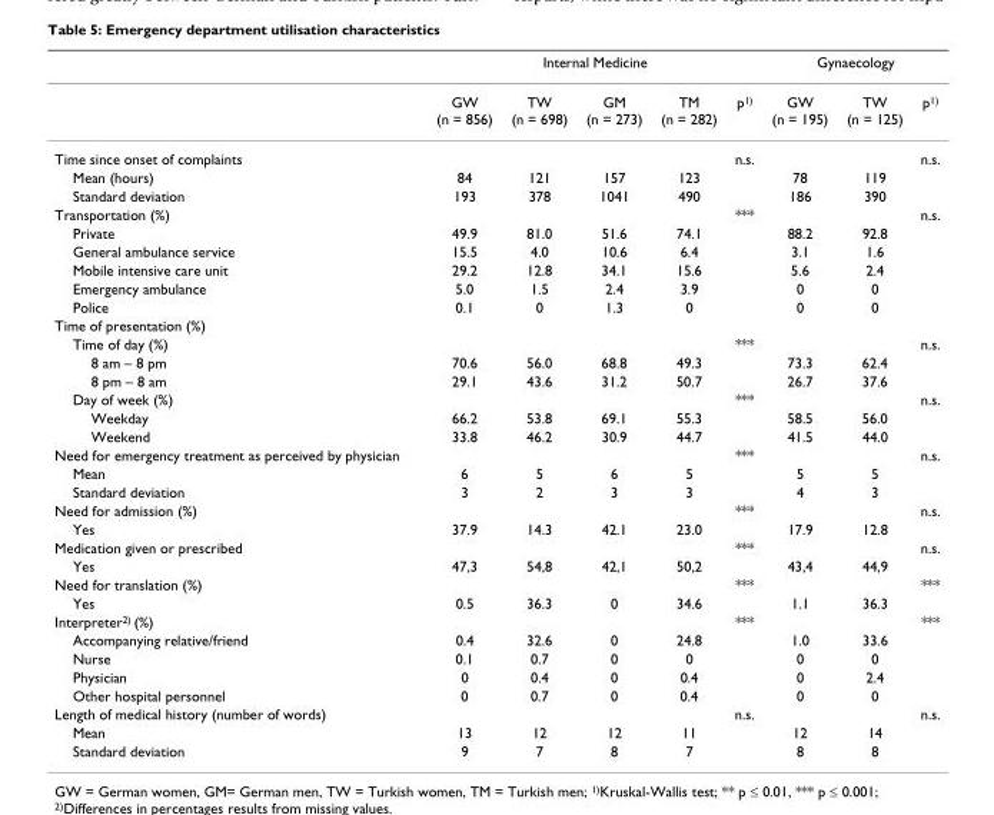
<table><thead><tr><td rowspan="2"></td><td colspan="5">Internal Medicine</td><td colspan="3">Gynaecology</td></tr><tr><td>GW (n = 856)</td><td>TW (n = 698)</td><td>GM (n = 273)</td><td>TM (n = 282)</td><td>p<sup>1)</sup></td><td>GW (n = 195)</td><td>TW (n = 125)</td><td>p<sup>1)</sup></td></tr></thead><tbody><tr><td>Time since onset of complaints</td><td></td><td></td><td></td><td></td><td>n.s.</td><td></td><td></td><td>n.s.</td></tr><tr><td>Mean (hours)</td><td>84</td><td>121</td><td>157</td><td>123</td><td></td><td>78</td><td>119</td><td></td></tr><tr><td>Standard deviation</td><td>193</td><td>378</td><td>1041</td><td>490</td><td></td><td>186</td><td>390</td><td></td></tr><tr><td>Transportation (%)</td><td></td><td></td><td></td><td></td><td>***</td><td></td><td></td><td>n.s.</td></tr><tr><td>Private</td><td>49.9</td><td>81.0</td><td>51.6</td><td>74.1</td><td></td><td>88.2</td><td>92.8</td><td></td></tr><tr><td>General ambulance service</td><td>15.5</td><td>4.0</td><td>10.6</td><td>6.4</td><td></td><td>3.1</td><td>1.6</td><td></td></tr><tr><td>Mobile intensive care unit</td><td>29.2</td><td>12.8</td><td>34.1</td><td>15.6</td><td></td><td>5.6</td><td>2.4</td><td></td></tr><tr><td>Emergency ambulance</td><td>5.0</td><td>1.5</td><td>2.4</td><td>3.9</td><td></td><td>0</td><td>0</td><td></td></tr><tr><td>Police</td><td>0.1</td><td>0</td><td>1.3</td><td>0</td><td></td><td>0</td><td>0</td><td></td></tr><tr><td colspan="9">Time of presentation (%)</td></tr><tr><td>Time of day (%)</td><td></td><td></td><td></td><td></td><td>***</td><td></td><td></td><td>n.s.</td></tr><tr><td>8 am – 8 pm</td><td>70.6</td><td>56.0</td><td>68.8</td><td>49.3</td><td></td><td>73.3</td><td>62.4</td><td></td></tr><tr><td>8 pm – 8 am</td><td>29.1</td><td>43.6</td><td>31.2</td><td>50.7</td><td></td><td>26.7</td><td>37.6</td><td></td></tr><tr><td>Day of week (%)</td><td></td><td></td><td></td><td></td><td>***</td><td></td><td></td><td>n.s.</td></tr><tr><td>Weekday</td><td>66.2</td><td>53.8</td><td>69.1</td><td>55.3</td><td></td><td>58.5</td><td>56.0</td><td></td></tr><tr><td>Weekend</td><td>33.8</td><td>46.2</td><td>30.9</td><td>44.7</td><td></td><td>41.5</td><td>44.0</td><td></td></tr><tr><td>Need for emergency treatment as perceived by physician</td><td></td><td></td><td></td><td></td><td>***</td><td></td><td></td><td>n.s.</td></tr><tr><td>Mean</td><td>6</td><td>5</td><td>6</td><td>5</td><td></td><td>5</td><td>5</td><td></td></tr><tr><td>Standard deviation</td><td>3</td><td>2</td><td>3</td><td>3</td><td></td><td>4</td><td>3</td><td></td></tr><tr><td>Need for admission (%)</td><td></td><td></td><td></td><td></td><td>***</td><td></td><td></td><td>n.s.</td></tr><tr><td>Yes</td><td>37.9</td><td>14.3</td><td>42.1</td><td>23.0</td><td></td><td>17.9</td><td>12.8</td><td></td></tr><tr><td>Medication given or prescribed</td><td></td><td></td><td></td><td></td><td>***</td><td></td><td></td><td>n.s.</td></tr><tr><td>Yes</td><td>47,3</td><td>54,8</td><td>42,1</td><td>50,2</td><td></td><td>43,4</td><td>44,9</td><td></td></tr><tr><td>Need for translation (%)</td><td></td><td></td><td></td><td></td><td>***</td><td></td><td></td><td>***</td></tr><tr><td>Yes</td><td>0.5</td><td>36.3</td><td>0</td><td>34.6</td><td></td><td>1.1</td><td>36.3</td><td></td></tr><tr><td>Interpreter<sup>2)</sup> (%)</td><td></td><td></td><td></td><td></td><td>***</td><td></td><td></td><td>***</td></tr><tr><td>Accompanying relative/friend</td><td>0.4</td><td>32.6</td><td>0</td><td>24.8</td><td></td><td>1.0</td><td>33.6</td><td></td></tr><tr><td>Nurse</td><td>0.1</td><td>0.7</td><td>0</td><td>0</td><td></td><td>0</td><td>0</td><td></td></tr><tr><td>Physician</td><td>0</td><td>0.4</td><td>0</td><td>0.4</td><td></td><td>0</td><td>2.4</td><td></td></tr><tr><td>Other hospital personnel</td><td>0</td><td>0.7</td><td>0</td><td>0.4</td><td></td><td>0</td><td>0</td><td></td></tr><tr><td>Length of medical history (number of words)</td><td></td><td></td><td></td><td></td><td>n.s.</td><td></td><td></td><td>n.s.</td></tr><tr><td>Mean</td><td>13</td><td>12</td><td>12</td><td>11</td><td></td><td>12</td><td>14</td><td></td></tr><tr><td>Standard deviation</td><td>9</td><td>7</td><td>8</td><td>7</td><td></td><td>8</td><td>8</td><td></td></tr></tbody></table>